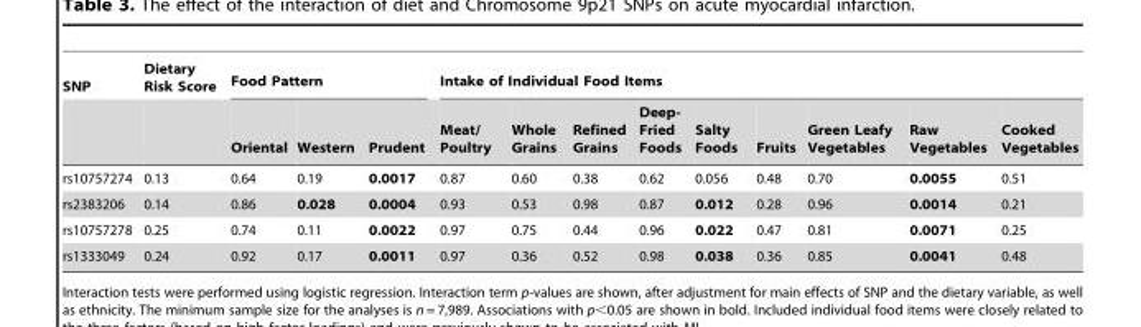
<table><thead><tr><td rowspan="2">SNP</td><td rowspan="2">Dietary Risk Score</td><td colspan="3">Food Pattern</td><td colspan="9">Intake of Individual Food Items</td></tr><tr><td>Oriental</td><td>Western</td><td>Prudent</td><td>Meat/ Poultry</td><td>Whole Grains</td><td>Refined Grains</td><td>Deep- Fried Foods</td><td>Salty Foods</td><td>Fruits</td><td>Green Leafy Vegetables</td><td>Raw Vegetables</td><td>Cooked Vegetables</td></tr></thead><tbody><tr><td>rs10757274</td><td>0.13</td><td>0.64</td><td>0.19</td><td>0.0017</td><td>0.87</td><td>0.60</td><td>0.38</td><td>0.62</td><td>0.056</td><td>0.48</td><td>0.70</td><td>0.0055</td><td>0.51</td></tr><tr><td>rs2383206</td><td>0.14</td><td>0.86</td><td>0.028</td><td>0.0004</td><td>0.93</td><td>0.53</td><td>0.98</td><td>0.87</td><td>0.012</td><td>0.28</td><td>0.96</td><td>0.0014</td><td>0.21</td></tr><tr><td>rs10757278</td><td>0.25</td><td>0.74</td><td>0.11</td><td>0.0022</td><td>0.97</td><td>0.75</td><td>0.44</td><td>0.96</td><td>0.022</td><td>0.47</td><td>0.81</td><td>0.0071</td><td>0.25</td></tr><tr><td>rs1333049</td><td>0.24</td><td>0.92</td><td>0.17</td><td>0.0011</td><td>0.97</td><td>0.36</td><td>0.52</td><td>0.98</td><td>0.038</td><td>0.36</td><td>0.85</td><td>0.0041</td><td>0.48</td></tr></tbody></table>